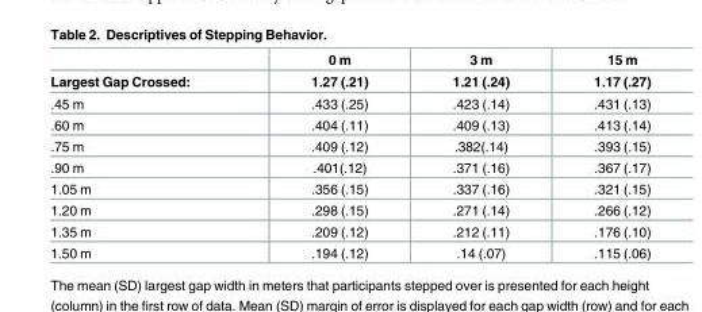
<table><thead><tr><td rowspan="2">Largest Gap Crossed:</td><td rowspan="2">0 m 1.27 (.21)</td><td rowspan="2">3 m 1.21 (.24)</td><td rowspan="2">15 m 1.17 (.27)</td></tr><tr></tr></thead><tbody><tr><td>.45 m</td><td>.433 (.25)</td><td>.423 (.14)</td><td>.431 (.13)</td></tr><tr><td>.60 m</td><td>.404 (.11)</td><td>.409 (.13)</td><td>.413 (.14)</td></tr><tr><td>.75 m</td><td>.409 (.12)</td><td>.382(.14)</td><td>.393 (.15)</td></tr><tr><td>.90 m</td><td>.401(.12)</td><td>.371 (.16)</td><td>.367 (.17)</td></tr><tr><td>1.05 m</td><td>.356 (.15)</td><td>.337 (.16)</td><td>.321 (.15)</td></tr><tr><td>1.20 m</td><td>.298 (.15)</td><td>.271 (.14)</td><td>.266 (.12)</td></tr><tr><td>1.35 m</td><td>.209 (.12)</td><td>.212 (.11)</td><td>.176 (.10)</td></tr><tr><td>1.50 m</td><td>.194 (.12)</td><td>.14 (.07)</td><td>.115 (.06)</td></tr></tbody></table>